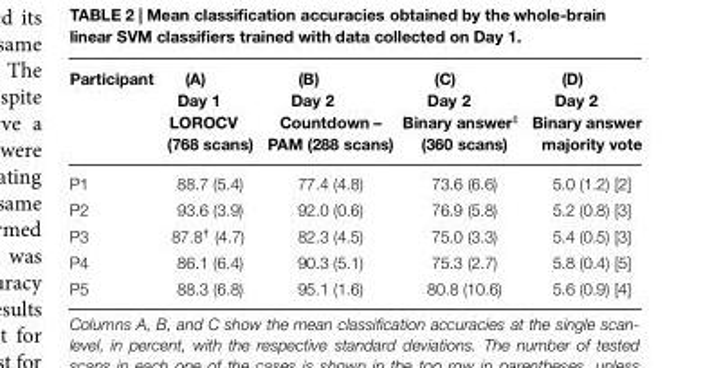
<table><thead><tr><td>Participant</td><td>(A) Day 1 LOROCV (768 scans)</td><td>(B) Day 2 Countdown – PAM (288 scans)</td><td>(C) Day 2 Binary answer<sup>‡</sup> (360 scans)</td><td>(D) Day 2 Binary answer majority vote</td></tr></thead><tbody><tr><td>P1</td><td>88.7 (5.4)</td><td>77.4 (4.8)</td><td>73.6 (6.6)</td><td>5.0 (1.2) [2]</td></tr><tr><td>P2</td><td>93.6 (3.9)</td><td>92.0 (0.6)</td><td>76.9 (5.8)</td><td>5.2 (0.8) [3]</td></tr><tr><td>P3</td><td>87.8<sup>†</sup> (4.7)</td><td>82.3 (4.5)</td><td>75.0 (3.3)</td><td>5.4 (0.5) [3]</td></tr><tr><td>P4</td><td>86.1 (6.4)</td><td>90.3 (5.1)</td><td>75.3 (2.7)</td><td>5.8 (0.4) [5]</td></tr><tr><td>P5</td><td>88.3 (6.8)</td><td>95.1 (1.6)</td><td>80.8 (10.6)</td><td>5.6 (0.9) [4]</td></tr></tbody></table>